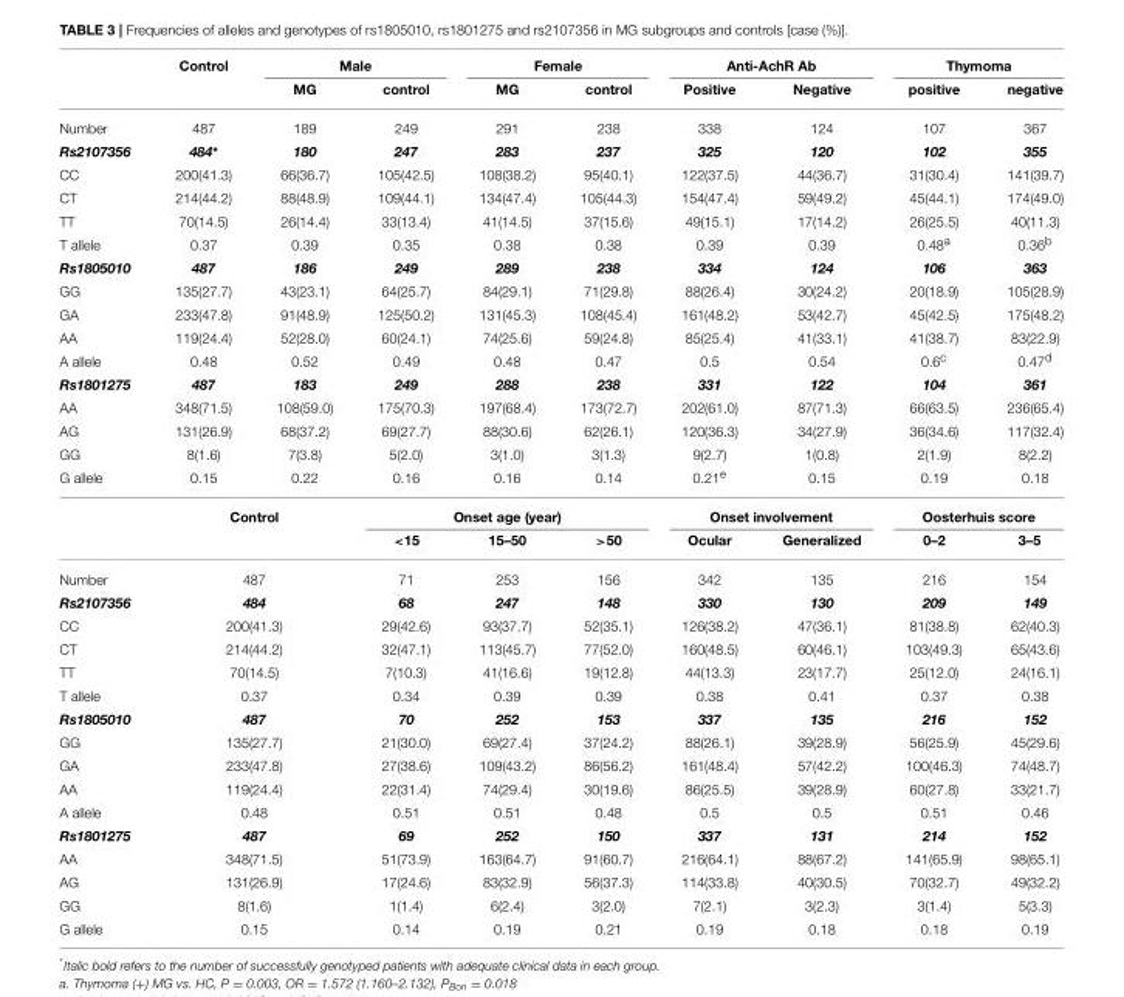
<table><thead><tr><td rowspan="2"></td><td rowspan="2">Control</td><td colspan="2">Male</td><td colspan="2">Female</td><td colspan="2">Anti-AchR Ab</td><td colspan="2">Thymoma</td></tr><tr><td>MG</td><td>control</td><td>MG</td><td>control</td><td>Positive</td><td>Negative</td><td>positive</td><td>negative</td></tr></thead><tbody><tr><td>Number</td><td>487</td><td>189</td><td>249</td><td>291</td><td>238</td><td>338</td><td>124</td><td>107</td><td>367</td></tr><tr><td>Rs2107356</td><td>484*</td><td>180</td><td>247</td><td>283</td><td>237</td><td>325</td><td>120</td><td>102</td><td>355</td></tr><tr><td>CC</td><td>200(41.3)</td><td>66(36.7)</td><td>105(42.5)</td><td>108(38.2)</td><td>95(40.1)</td><td>122(37.5)</td><td>44(36.7)</td><td>31(30.4)</td><td>141(39.7)</td></tr><tr><td>CT</td><td>214(44.2)</td><td>88(48.9)</td><td>109(44.1)</td><td>134(47.4)</td><td>105(44.3)</td><td>154(47.4)</td><td>59(49.2)</td><td>45(44.1)</td><td>174(49.0)</td></tr><tr><td>TT</td><td>70(14.5)</td><td>26(14.4)</td><td>33(13.4)</td><td>41(14.5)</td><td>37(15.6)</td><td>49(15.1)</td><td>17(14.2)</td><td>26(25.5)</td><td>40(11.3)</td></tr><tr><td>T allele</td><td>0.37</td><td>0.39</td><td>0.35</td><td>0.38</td><td>0.38</td><td>0.39</td><td>0.39</td><td>0.48<sup>a</sup></td><td>0.36<sup>b</sup></td></tr><tr><td>Rs1805010</td><td>487</td><td>186</td><td>249</td><td>289</td><td>238</td><td>334</td><td>124</td><td>106</td><td>363</td></tr><tr><td>GG</td><td>135(27.7)</td><td>43(23.1)</td><td>64(25.7)</td><td>84(29.1)</td><td>71(29.8)</td><td>88(26.4)</td><td>30(24.2)</td><td>20(18.9)</td><td>105(28.9)</td></tr><tr><td>GA</td><td>233(47.8)</td><td>91(48.9)</td><td>125(50.2)</td><td>131(45.3)</td><td>108(45.4)</td><td>161(48.2)</td><td>53(42.7)</td><td>45(42.5)</td><td>175(48.2)</td></tr><tr><td>AA</td><td>119(24.4)</td><td>52(28.0)</td><td>60(24.1)</td><td>74(25.6)</td><td>59(24.8)</td><td>85(25.4)</td><td>41(33.1)</td><td>41(38.7)</td><td>83(22.9)</td></tr><tr><td>A allele</td><td>0.48</td><td>0.52</td><td>0.49</td><td>0.48</td><td>0.47</td><td>0.5</td><td>0.54</td><td>0.6<sup>c</sup></td><td>0.47<sup>d</sup></td></tr><tr><td>Rs1801275</td><td>487</td><td>183</td><td>249</td><td>288</td><td>238</td><td>331</td><td>122</td><td>104</td><td>361</td></tr><tr><td>AA</td><td>348(71.5)</td><td>108(59.0)</td><td>175(70.3)</td><td>197(68.4)</td><td>173(72.7)</td><td>202(61.0)</td><td>87(71.3)</td><td>66(63.5)</td><td>236(65.4)</td></tr><tr><td>AG</td><td>131(26.9)</td><td>68(37.2)</td><td>69(27.7)</td><td>88(30.6)</td><td>62(26.1)</td><td>120(36.3)</td><td>34(27.9)</td><td>36(34.6)</td><td>117(32.4)</td></tr><tr><td>GG</td><td>8(1.6)</td><td>7(3.8)</td><td>5(2.0)</td><td>3(1.0)</td><td>3(1.3)</td><td>9(2.7)</td><td>1(0.8)</td><td>2(1.9)</td><td>8(2.2)</td></tr><tr><td rowspan="3">G allele</td><td>0.15</td><td>0.22</td><td>0.16</td><td>0.16</td><td>0.14</td><td>0.21<sup>e</sup></td><td>0.15</td><td>0.19</td><td>0.18</td></tr><tr><td colspan="2">Control</td><td colspan="3">Onset age (year)</td><td colspan="2">Onset involvement</td><td colspan="2">Oosterhuis score</td></tr><tr><td></td><td></td><td>&lt;15</td><td>15–50</td><td>&gt;50</td><td>Ocular</td><td>Generalized</td><td>0–2</td><td>3–5</td></tr><tr><td>Number</td><td colspan="2">487</td><td>71</td><td>253</td><td>156</td><td>342</td><td>135</td><td>216</td><td>154</td></tr><tr><td>Rs2107356</td><td colspan="2">484</td><td>68</td><td>247</td><td>148</td><td>330</td><td>130</td><td>209</td><td>149</td></tr><tr><td>CC</td><td colspan="2">200(41.3)</td><td>29(42.6)</td><td>93(37.7)</td><td>52(35.1)</td><td>126(38.2)</td><td>47(36.1)</td><td>81(38.8)</td><td>62(40.3)</td></tr><tr><td>CT</td><td colspan="2">214(44.2)</td><td>32(47.1)</td><td>113(45.7)</td><td>77(52.0)</td><td>160(48.5)</td><td>60(46.1)</td><td>103(49.3)</td><td>65(43.6)</td></tr><tr><td>TT</td><td colspan="2">70(14.5)</td><td>7(10.3)</td><td>41(16.6)</td><td>19(12.8)</td><td>44(13.3)</td><td>23(17.7)</td><td>25(12.0)</td><td>24(16.1)</td></tr><tr><td>T allele</td><td colspan="2">0.37</td><td>0.34</td><td>0.39</td><td>0.39</td><td>0.38</td><td>0.41</td><td>0.37</td><td>0.38</td></tr><tr><td>Rs1805010</td><td colspan="2">487</td><td>70</td><td>252</td><td>153</td><td>337</td><td>135</td><td>216</td><td>152</td></tr><tr><td>GG</td><td colspan="2">135(27.7)</td><td>21(30.0)</td><td>69(27.4)</td><td>37(24.2)</td><td>88(26.1)</td><td>39(28.9)</td><td>56(25.9)</td><td>45(29.6)</td></tr><tr><td>GA</td><td colspan="2">233(47.8)</td><td>27(38.6)</td><td>109(43.2)</td><td>86(56.2)</td><td>161(48.4)</td><td>57(42.2)</td><td>100(46.3)</td><td>74(48.7)</td></tr><tr><td>AA</td><td colspan="2">119(24.4)</td><td>22(31.4)</td><td>74(29.4)</td><td>30(19.6)</td><td>86(25.5)</td><td>39(28.9)</td><td>60(27.8)</td><td>33(21.7)</td></tr><tr><td>A allele</td><td colspan="2">0.48</td><td>0.51</td><td>0.51</td><td>0.48</td><td>0.5</td><td>0.5</td><td>0.51</td><td>0.46</td></tr><tr><td>Rs1801275</td><td colspan="2">487</td><td>69</td><td>252</td><td>150</td><td>337</td><td>131</td><td>214</td><td>152</td></tr><tr><td>AA</td><td colspan="2">348(71.5)</td><td>51(73.9)</td><td>163(64.7)</td><td>91(60.7)</td><td>216(64.1)</td><td>88(67.2)</td><td>141(65.9)</td><td>98(65.1)</td></tr><tr><td>AG</td><td colspan="2">131(26.9)</td><td>17(24.6)</td><td>83(32.9)</td><td>56(37.3)</td><td>114(33.8)</td><td>40(30.5)</td><td>70(32.7)</td><td>49(32.2)</td></tr><tr><td>GG</td><td colspan="2">8(1.6)</td><td>1(1.4)</td><td>6(2.4)</td><td>3(2.0)</td><td>7(2.1)</td><td>3(2.3)</td><td>3(1.4)</td><td>5(3.3)</td></tr><tr><td>G allele</td><td colspan="2">0.15</td><td>0.14</td><td>0.19</td><td>0.21</td><td>0.19</td><td>0.18</td><td>0.18</td><td>0.19</td></tr></tbody></table>